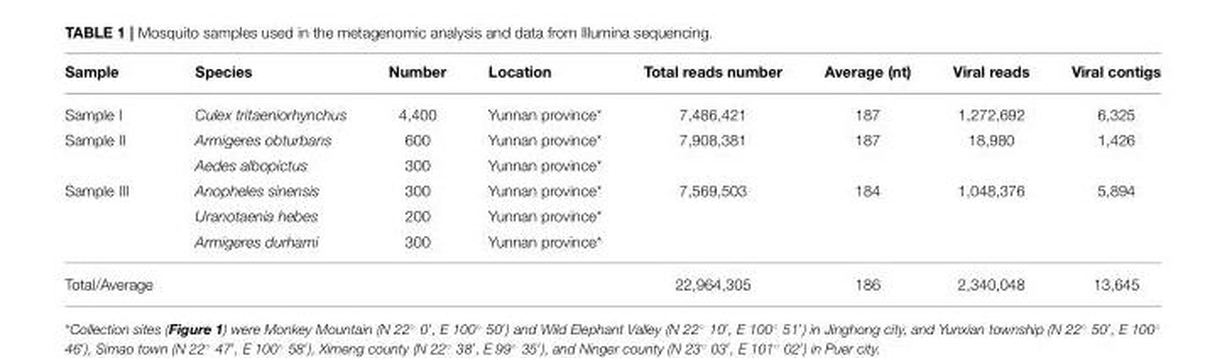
<table><thead><tr><td>Sample</td><td>Species</td><td>Number</td><td>Location</td><td>Total reads number</td><td>Average (nt)</td><td>Viral reads</td><td>Viral contigs</td></tr></thead><tbody><tr><td>Sample I</td><td>Culex tritaeniorhynchus</td><td>4,400</td><td>Yunnan province*</td><td>7,486,421</td><td>187</td><td>1,272,692</td><td>6,325</td></tr><tr><td rowspan="2">Sample II</td><td>Armigeres obturbans</td><td>600</td><td>Yunnan province*</td><td>7,908,381</td><td>187</td><td>18,980</td><td>1,426</td></tr><tr><td>Aedes albopictus</td><td>300</td><td>Yunnan province*</td><td></td><td></td><td></td><td></td></tr><tr><td rowspan="3">Sample III</td><td>Anopheles sinensis</td><td>300</td><td>Yunnan province*</td><td>7,569,503</td><td>184</td><td>1,048,376</td><td>5,894</td></tr><tr><td>Uranotaenia hebes</td><td>200</td><td>Yunnan province*</td><td></td><td></td><td></td><td></td></tr><tr><td>Armigeres durhami</td><td>300</td><td>Yunnan province*</td><td></td><td></td><td></td><td></td></tr><tr><td>Total/Average</td><td></td><td></td><td></td><td>22,964,305</td><td>186</td><td>2,340,048</td><td>13,645</td></tr></tbody></table>